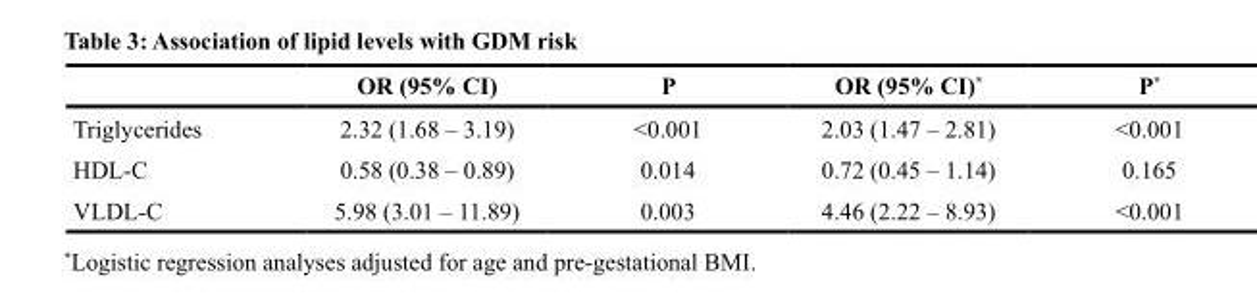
<table><thead><tr><td></td><td>OR (95% CI)</td><td>P</td><td>OR (95% CI)*</td><td>P*</td></tr></thead><tbody><tr><td>Triglycerides</td><td>2.32 (1.68 – 3.19)</td><td>&lt;0.001</td><td>2.03 (1.47 – 2.81)</td><td>&lt;0.001</td></tr><tr><td>HDL-C</td><td>0.58 (0.38 – 0.89)</td><td>0.014</td><td>0.72 (0.45 – 1.14)</td><td>0.165</td></tr><tr><td>VLDL-C</td><td>5.98 (3.01 – 11.89)</td><td>0.003</td><td>4.46 (2.22 – 8.93)</td><td>&lt;0.001</td></tr></tbody></table>